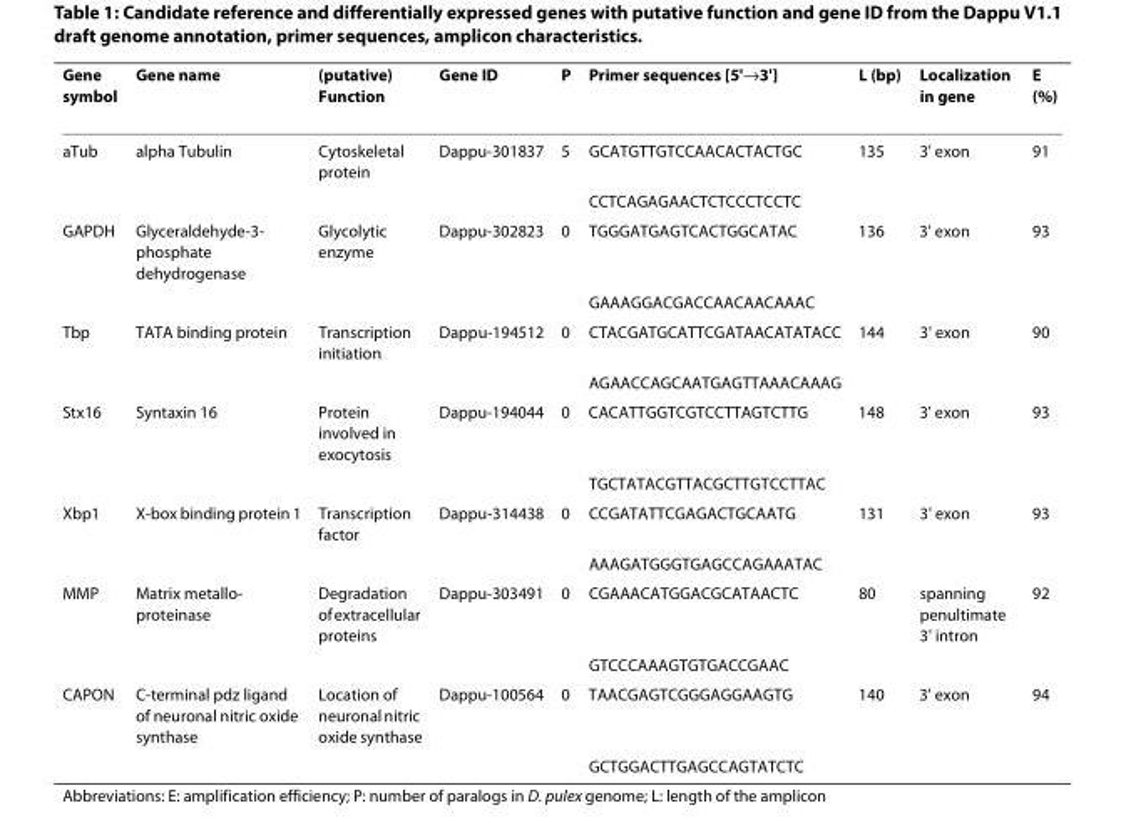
<table><thead><tr><td>Gene symbol</td><td>Gene name</td><td>(putative) Function</td><td>Gene ID</td><td>P</td><td>Primer sequences [5&#x27;→3&#x27;]</td><td>L (bp)</td><td>Localization in gene</td><td>E (%)</td></tr></thead><tbody><tr><td rowspan="2">aTub</td><td>alpha Tubulin</td><td>Cytoskeletal protein</td><td>Dappu-301837</td><td>5</td><td>GCATGTTGTCCAACACTACTGC</td><td>135</td><td>3&#x27; exon</td><td>91</td></tr><tr><td></td><td></td><td></td><td></td><td>CCTCAGAGAACTCTCCCTCCTC</td><td></td><td></td><td></td></tr><tr><td rowspan="2">GAPDH</td><td>Glyceraldehyde-3- phosphate dehydrogenase</td><td>Glycolytic enzyme</td><td>Dappu-302823</td><td>0</td><td>TGGGATGAGTCACTGGCATAC</td><td>136</td><td>3&#x27; exon</td><td>93</td></tr><tr><td></td><td></td><td></td><td></td><td>GAAAGGACGACCAACAACAAAC</td><td></td><td></td><td></td></tr><tr><td rowspan="2">Tbp</td><td>TATA binding protein</td><td>Transcription initiation</td><td>Dappu-194512</td><td>0</td><td>CTACGATGCATTCGATAACATATACC</td><td>144</td><td>3&#x27; exon</td><td>90</td></tr><tr><td></td><td></td><td></td><td></td><td>AGAACCAGCAATGAGTTAAACAAAG</td><td></td><td></td><td></td></tr><tr><td rowspan="2">Stx16</td><td>Syntaxin 16</td><td>Protein involved in exocytosis</td><td>Dappu-194044</td><td>0</td><td>CACATTGGTCGTCCTTAGTCTTG</td><td>148</td><td>3&#x27; exon</td><td>93</td></tr><tr><td></td><td></td><td></td><td></td><td>TGCTATACGTTACGCTTGTCCTTAC</td><td></td><td></td><td></td></tr><tr><td rowspan="2">Xbp1</td><td>X-box binding protein 1</td><td>Transcription factor</td><td>Dappu-314438</td><td>0</td><td>CCGATATTCGAGACTGCAATG</td><td>131</td><td>3&#x27; exon</td><td>93</td></tr><tr><td></td><td></td><td></td><td></td><td>AAAGATGGGTGAGCCAGAAATAC</td><td></td><td></td><td></td></tr><tr><td rowspan="2">MMP</td><td>Matrix metallo- proteinase</td><td>Degradation of extracellular proteins</td><td>Dappu-303491</td><td>0</td><td>CGAAACATGGACGCATAACTC</td><td>80</td><td>spanning penultimate 3&#x27; intron</td><td>92</td></tr><tr><td></td><td></td><td></td><td></td><td>GTCCCAAAGTGTGACCGAAC</td><td></td><td></td><td></td></tr><tr><td rowspan="2">CAPON</td><td>C-terminal pdz ligand of neuronal nitric oxide synthase</td><td>Location of neuronal nitric oxide synthase</td><td>Dappu-100564</td><td>0</td><td>TAACGAGTCGGGAGGAAGTG</td><td>140</td><td>3&#x27; exon</td><td>94</td></tr><tr><td></td><td></td><td></td><td></td><td>GCTGGACTTGAGCCAGTATCTC</td><td></td><td></td><td></td></tr></tbody></table>